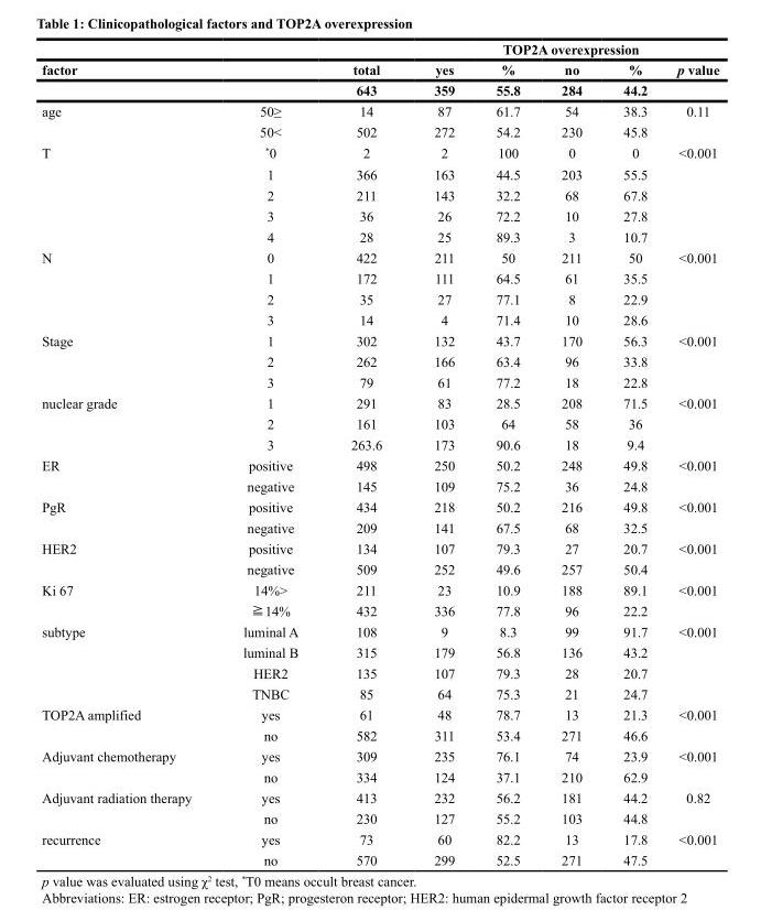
<table><thead><tr><td rowspan="3">factor</td><td rowspan="3"></td><td rowspan="3">total 643</td><td colspan="5">TOP2A overexpression</td></tr><tr><td rowspan="2">yes 359</td><td rowspan="2">% 55.8</td><td rowspan="2">no 284</td><td rowspan="2">% 44.2</td><td rowspan="2">p value</td></tr><tr></tr></thead><tbody><tr><td rowspan="2">age</td><td>50≥</td><td>14</td><td>87</td><td>61.7</td><td>54</td><td>38.3</td><td>0.11</td></tr><tr><td>50&lt;</td><td>502</td><td>272</td><td>54.2</td><td>230</td><td>45.8</td><td></td></tr><tr><td rowspan="5">T</td><td>*0</td><td>2</td><td>2</td><td>100</td><td>0</td><td>0</td><td>&lt;0.001</td></tr><tr><td>1</td><td>366</td><td>163</td><td>44.5</td><td>203</td><td>55.5</td><td></td></tr><tr><td>2</td><td>211</td><td>143</td><td>32.2</td><td>68</td><td>67.8</td><td></td></tr><tr><td>3</td><td>36</td><td>26</td><td>72.2</td><td>10</td><td>27.8</td><td></td></tr><tr><td>4</td><td>28</td><td>25</td><td>89.3</td><td>3</td><td>10.7</td><td></td></tr><tr><td rowspan="4">N</td><td>0</td><td>422</td><td>211</td><td>50</td><td>211</td><td>50</td><td>&lt;0.001</td></tr><tr><td>1</td><td>172</td><td>111</td><td>64.5</td><td>61</td><td>35.5</td><td></td></tr><tr><td>2</td><td>35</td><td>27</td><td>77.1</td><td>8</td><td>22.9</td><td></td></tr><tr><td>3</td><td>14</td><td>4</td><td>71.4</td><td>10</td><td>28.6</td><td></td></tr><tr><td rowspan="3">Stage</td><td>1</td><td>302</td><td>132</td><td>43.7</td><td>170</td><td>56.3</td><td>&lt;0.001</td></tr><tr><td>2</td><td>262</td><td>166</td><td>63.4</td><td>96</td><td>33.8</td><td></td></tr><tr><td>3</td><td>79</td><td>61</td><td>77.2</td><td>18</td><td>22.8</td><td></td></tr><tr><td rowspan="3">nuclear grade</td><td>1</td><td>291</td><td>83</td><td>28.5</td><td>208</td><td>71.5</td><td>&lt;0.001</td></tr><tr><td>2</td><td>161</td><td>103</td><td>64</td><td>58</td><td>36</td><td></td></tr><tr><td>3</td><td>263.6</td><td>173</td><td>90.6</td><td>18</td><td>9.4</td><td></td></tr><tr><td rowspan="2">ER</td><td>positive</td><td>498</td><td>250</td><td>50.2</td><td>248</td><td>49.8</td><td>&lt;0.001</td></tr><tr><td>negative</td><td>145</td><td>109</td><td>75.2</td><td>36</td><td>24.8</td><td></td></tr><tr><td rowspan="2">PgR</td><td>positive</td><td>434</td><td>218</td><td>50.2</td><td>216</td><td>49.8</td><td>&lt;0.001</td></tr><tr><td>negative</td><td>209</td><td>141</td><td>67.5</td><td>68</td><td>32.5</td><td></td></tr><tr><td rowspan="2">HER2</td><td>positive</td><td>134</td><td>107</td><td>79.3</td><td>27</td><td>20.7</td><td>&lt;0.001</td></tr><tr><td>negative</td><td>509</td><td>252</td><td>49.6</td><td>257</td><td>50.4</td><td></td></tr><tr><td rowspan="2">Ki 67</td><td>14%&gt;</td><td>211</td><td>23</td><td>10.9</td><td>188</td><td>89.1</td><td>&lt;0.001</td></tr><tr><td>≧14%</td><td>432</td><td>336</td><td>77.8</td><td>96</td><td>22.2</td><td></td></tr><tr><td rowspan="4">subtype</td><td>luminal A</td><td>108</td><td>9</td><td>8.3</td><td>99</td><td>91.7</td><td>&lt;0.001</td></tr><tr><td>luminal B</td><td>315</td><td>179</td><td>56.8</td><td>136</td><td>43.2</td><td></td></tr><tr><td>HER2</td><td>135</td><td>107</td><td>79.3</td><td>28</td><td>20.7</td><td></td></tr><tr><td>TNBC</td><td>85</td><td>64</td><td>75.3</td><td>21</td><td>24.7</td><td></td></tr><tr><td rowspan="2">TOP2A amplified</td><td>yes</td><td>61</td><td>48</td><td>78.7</td><td>13</td><td>21.3</td><td>&lt;0.001</td></tr><tr><td>no</td><td>582</td><td>311</td><td>53.4</td><td>271</td><td>46.6</td><td></td></tr><tr><td rowspan="2">Adjuvant chemotherapy</td><td>yes</td><td>309</td><td>235</td><td>76.1</td><td>74</td><td>23.9</td><td>&lt;0.001</td></tr><tr><td>no</td><td>334</td><td>124</td><td>37.1</td><td>210</td><td>62.9</td><td></td></tr><tr><td rowspan="2">Adjuvant radiation therapy</td><td>yes</td><td>413</td><td>232</td><td>56.2</td><td>181</td><td>44.2</td><td>0.82</td></tr><tr><td>no</td><td>230</td><td>127</td><td>55.2</td><td>103</td><td>44.8</td><td></td></tr><tr><td rowspan="2">recurrence</td><td>yes</td><td>73</td><td>60</td><td>82.2</td><td>13</td><td>17.8</td><td>&lt;0.001</td></tr><tr><td>no</td><td>570</td><td>299</td><td>52.5</td><td>271</td><td>47.5</td><td></td></tr></tbody></table>